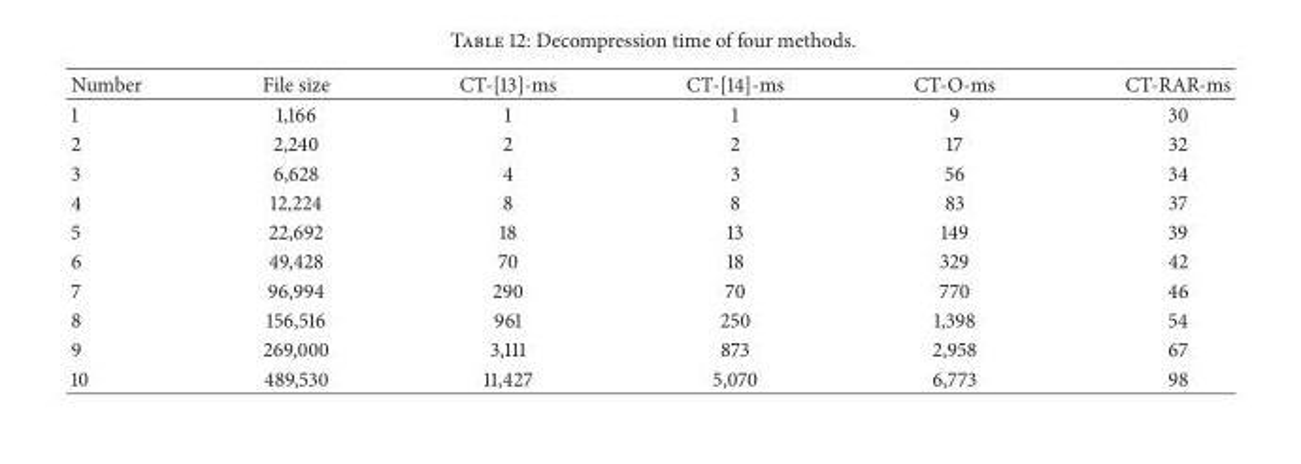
<table><thead><tr><td>Number</td><td>File size</td><td>CT-[13]-ms</td><td>CT-[14]-ms</td><td>CT-O-ms</td><td>CT-RAR-ms</td></tr></thead><tbody><tr><td>1</td><td>1,166</td><td>1</td><td>1</td><td>9</td><td>30</td></tr><tr><td>2</td><td>2,240</td><td>2</td><td>2</td><td>17</td><td>32</td></tr><tr><td>3</td><td>6,628</td><td>4</td><td>3</td><td>56</td><td>34</td></tr><tr><td>4</td><td>12,224</td><td>8</td><td>8</td><td>83</td><td>37</td></tr><tr><td>5</td><td>22,692</td><td>18</td><td>13</td><td>149</td><td>39</td></tr><tr><td>6</td><td>49,428</td><td>70</td><td>18</td><td>329</td><td>42</td></tr><tr><td>7</td><td>96,994</td><td>290</td><td>70</td><td>770</td><td>46</td></tr><tr><td>8</td><td>156,516</td><td>961</td><td>250</td><td>1,398</td><td>54</td></tr><tr><td>9</td><td>269,000</td><td>3,111</td><td>873</td><td>2,958</td><td>67</td></tr><tr><td>10</td><td>489,530</td><td>11,427</td><td>5,070</td><td>6,773</td><td>98</td></tr></tbody></table>